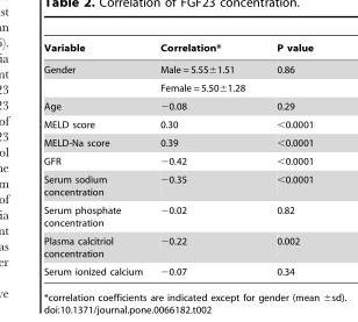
<table><thead><tr><td>Variable</td><td>Correlation*</td><td>P value</td></tr></thead><tbody><tr><td rowspan="2">Gender</td><td>Male = 5.55±1.51</td><td>0.86</td></tr><tr><td>Female = 5.50±1.28</td><td></td></tr><tr><td>Age</td><td>−0.08</td><td>0.29</td></tr><tr><td>MELD score</td><td>0.30</td><td>&lt;0.0001</td></tr><tr><td>MELD-Na score</td><td>0.39</td><td>&lt;0.0001</td></tr><tr><td>GFR</td><td>−0.42</td><td>&lt;0.0001</td></tr><tr><td>Serum sodium concentration</td><td>−0.35</td><td>&lt;0.0001</td></tr><tr><td>Serum phosphate concentration</td><td>−0.02</td><td>0.82</td></tr><tr><td>Plasma calcitriol concentration</td><td>−0.22</td><td>0.002</td></tr><tr><td>Serum ionized calcium</td><td>−0.07</td><td>0.34</td></tr></tbody></table>